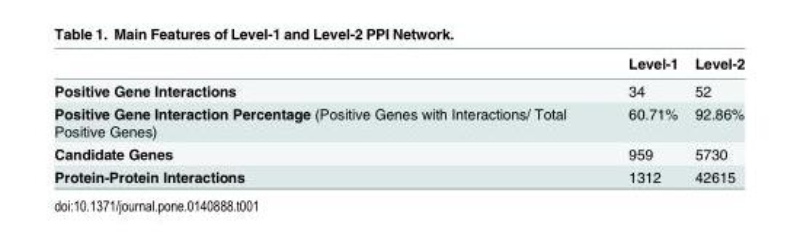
<table><thead><tr><td></td><td>Level-1</td><td>Level-2</td></tr></thead><tbody><tr><td>Positive Gene Interactions</td><td>34</td><td>52</td></tr><tr><td>Positive Gene Interaction Percentage (Positive Genes with Interactions/ Total Positive Genes)</td><td>60.71%</td><td>92.86%</td></tr><tr><td>Candidate Genes</td><td>959</td><td>5730</td></tr><tr><td>Protein-Protein Interactions</td><td>1312</td><td>42615</td></tr></tbody></table>